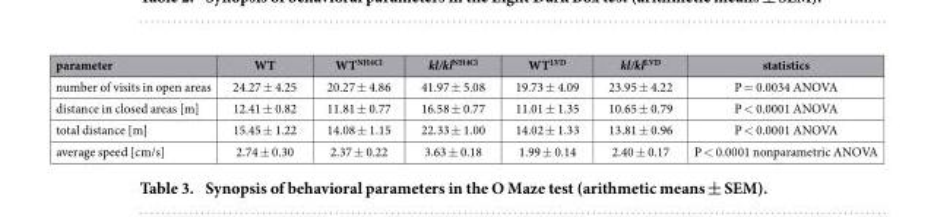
<table><thead><tr><td>parameter</td><td>WT</td><td>WT<sup>NH4Cl</sup></td><td>kl/kl<sup>NH4Cl</sup></td><td>WT<sup>LVD</sup></td><td>kl/kl<sup>LVD</sup></td><td>statistics</td></tr></thead><tbody><tr><td>number of visits in open areas</td><td>24.27 ± 4.25</td><td>20.27 ± 4.86</td><td>41.97 ± 5.08</td><td>19.73 ± 4.09</td><td>23.95 ± 4.22</td><td>P = 0.0034 ANOVA</td></tr><tr><td>distance in closed areas [m]</td><td>12.41 ± 0.82</td><td>11.81 ± 0.77</td><td>16.58 ± 0.77</td><td>11.01 ± 1.35</td><td>10.65 ± 0.79</td><td>P &lt; 0.0001 ANOVA</td></tr><tr><td>total distance [m]</td><td>15.45 ± 1.22</td><td>14.08 ± 1.15</td><td>22.33 ± 1.00</td><td>14.02 ± 1.33</td><td>13.81 ± 0.96</td><td>P &lt; 0.0001 ANOVA</td></tr><tr><td>average speed [cm/s]</td><td>2.74 ± 0.30</td><td>2.37 ± 0.22</td><td>3.63 ± 0.18</td><td>1.99 ± 0.14</td><td>2.40 ± 0.17</td><td>P &lt; 0.0001 nonparametric ANOVA</td></tr></tbody></table>